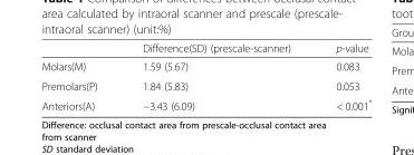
<table><thead><tr><td></td><td>Difference(SD) (prescale-scanner)</td><td>p-value</td></tr></thead><tbody><tr><td>Molars(M)</td><td>1.59 (5.67)</td><td>0.083</td></tr><tr><td>Premolars(P)</td><td>1.84 (5.83)</td><td>0.053</td></tr><tr><td>Anteriors(A)</td><td>−3.43 (6.09)</td><td>&lt; 0.001*</td></tr></tbody></table>